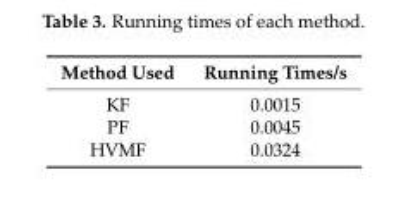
<table><thead><tr><td>Method Used</td><td>Running Times/s</td></tr></thead><tbody><tr><td>KF</td><td>0.0015</td></tr><tr><td>PF</td><td>0.0045</td></tr><tr><td>HVMF</td><td>0.0324</td></tr></tbody></table>